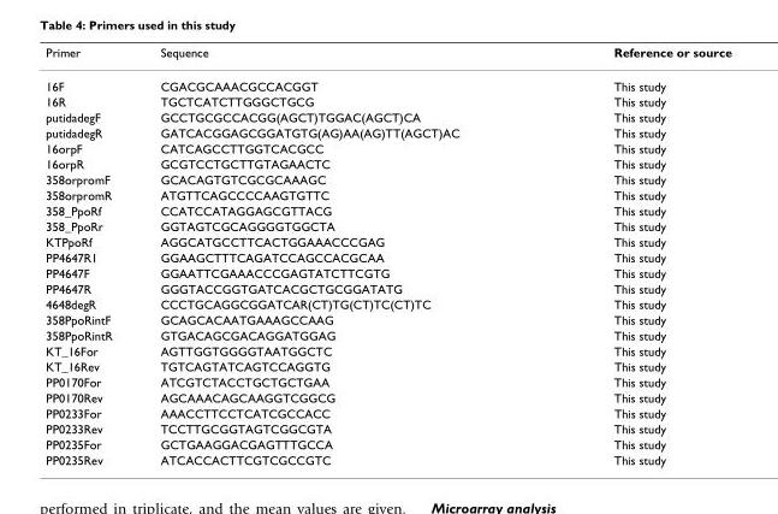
<table><thead><tr><td>Primer</td><td>Sequence</td><td>Reference or source</td></tr></thead><tbody><tr><td>16F</td><td>CGACGCAAACGCCACGGT</td><td>This study</td></tr><tr><td>16R</td><td>TGCTCATCTTGGGCTGCG</td><td>This study</td></tr><tr><td>putidadegF</td><td>GCCTGCGCCACGG(AGCT)TGGAC(AGCT)CA</td><td>This study</td></tr><tr><td>putidadegR</td><td>GATCACGGAGCGGATGTG(AG)AA(AG)TT(AGCT)AC</td><td>This study</td></tr><tr><td>16orpF</td><td>CATCAGCCTTGGTCACGCC</td><td>This study</td></tr><tr><td>16orpR</td><td>GCGTCCTGCTTGTAGAACTC</td><td>This study</td></tr><tr><td>358orpromF</td><td>GCACAGTGTCGCGCAAAGC</td><td>This study</td></tr><tr><td>358orpromR</td><td>ATGTTCAGCCCCAAGTGTTC</td><td>This study</td></tr><tr><td>358_PpoRf</td><td>CCATCCATAGGAGCGTTACG</td><td>This study</td></tr><tr><td>358_PpoRr</td><td>GGTAGTCGCAGGGGTGGCTA</td><td>This study</td></tr><tr><td>KTPpoRf</td><td>AGGCATGCCTTCACTGGAAACCCGAG</td><td>This study</td></tr><tr><td>PP4647R1</td><td>GGAAGCTTTCAGATCCAGCCACGCAA</td><td>This study</td></tr><tr><td>PP4647F</td><td>GGAATTCGAAACCCGAGTATCTTCGTG</td><td>This study</td></tr><tr><td>PP4647R</td><td>GGGTACCGGTGATCACGCTGCGGATATG</td><td>This study</td></tr><tr><td>4648degR</td><td>CCCTGCAGGCGGATCAR(CT)TG(CT)TC(CT)TC</td><td>This study</td></tr><tr><td>358PpoRintF</td><td>GCAGCACAATGAAAGCCAAG</td><td>This study</td></tr><tr><td>358PpoRintR</td><td>GTGACAGCGACAGGATGGAG</td><td>This study</td></tr><tr><td>KT_16For</td><td>AGTTGGTGGGGTAATGGCTC</td><td>This study</td></tr><tr><td>KT_16Rev</td><td>TGTCAGTATCAGTCCAGGTG</td><td>This study</td></tr><tr><td>PP0170For</td><td>ATCGTCTACCTGCTGCTGAA</td><td>This study</td></tr><tr><td>PP0170Rev</td><td>AGCAAACAGCAAGGTCGGCG</td><td>This study</td></tr><tr><td>PP0233For</td><td>AAACCTTCCTCATCGCCACC</td><td>This study</td></tr><tr><td>PP0233Rev</td><td>TCCTTGCGGTAGTCGGCGTA</td><td>This study</td></tr><tr><td>PP0235For</td><td>GCTGAAGGACGAGTTTGCCA</td><td>This study</td></tr><tr><td>PP0235Rev</td><td>ATCACCACTTCGTCGCCGTC</td><td>This study</td></tr></tbody></table>